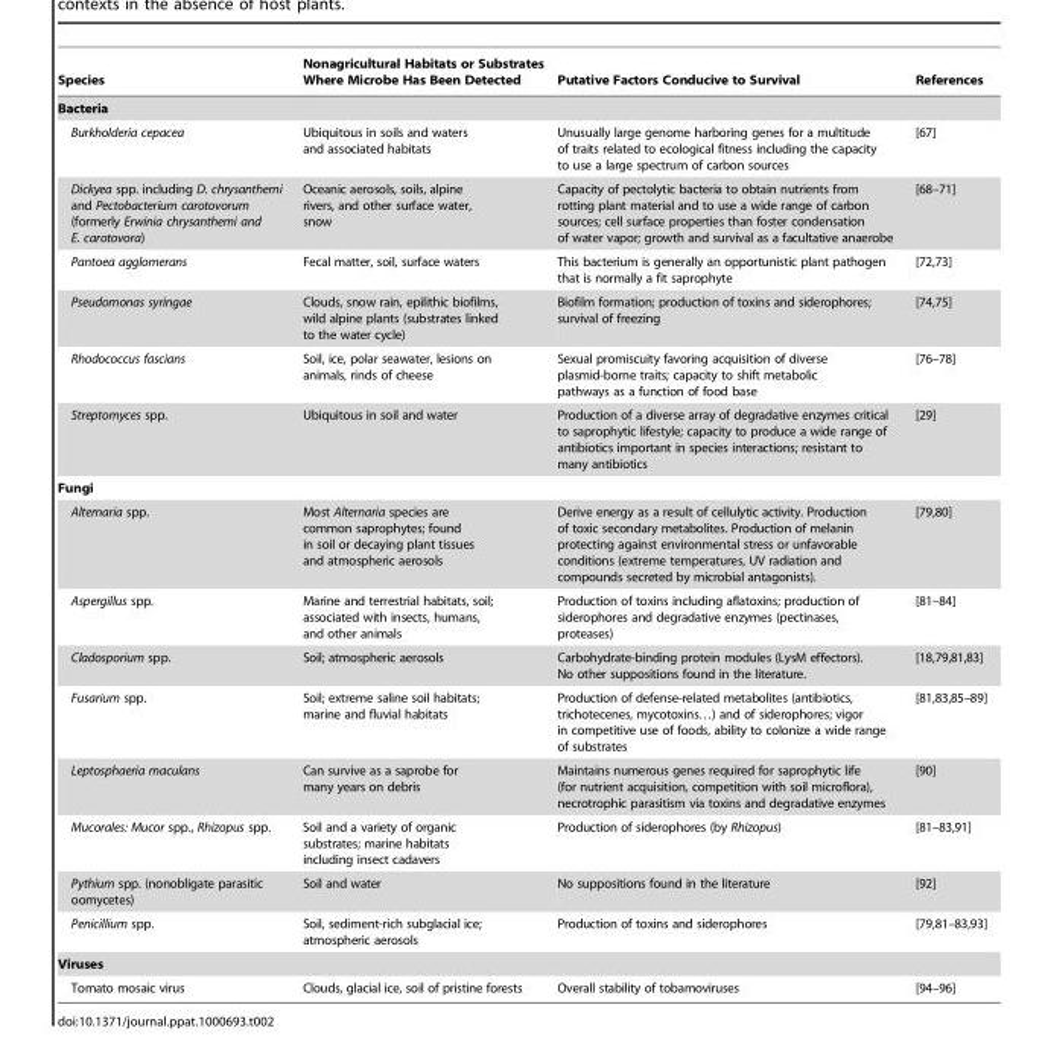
<table><thead><tr><td>Species</td><td>Nonagricultural Habitats or Substrates Where Microbe Has Been Detected</td><td>Putative Factors Conducive to Survival</td><td>References</td></tr></thead><tbody><tr><td colspan="4">Bacteria</td></tr><tr><td>Burkholderia cepacea</td><td>Ubiquitous in soils and waters and associated habitats</td><td>Unusually large genome harboring genes for a multitude of traits related to ecological fitness including the capacity to use a large spectrum of carbon sources</td><td>[67]</td></tr><tr><td>Dickyea spp. including D. chrysanthemi and Pectobacterium carotovorum (formerly Erwinia chrysanthemi and E. carotovora)</td><td>Oceanic aerosols, soils, alpine rivers, and other surface water, snow</td><td>Capacity of pectolytic bacteria to obtain nutrients from rotting plant material and to use a wide range of carbon sources; cell surface properties than foster condensation of water vapor; growth and survival as a facultative anaerobe</td><td>[68–71]</td></tr><tr><td>Pantoea agglomerans</td><td>Fecal matter, soil, surface waters</td><td>This bacterium is generally an opportunistic plant pathogen that is normally a fit saprophyte</td><td>[72,73]</td></tr><tr><td>Pseudomonas syringae</td><td>Clouds, snow rain, epilithic biofilms, wild alpine plants (substrates linked to the water cycle)</td><td>Biofilm formation; production of toxins and siderophores; survival of freezing</td><td>[74,75]</td></tr><tr><td>Rhodococcus fascians</td><td>Soil, ice, polar seawater, lesions on animals, rinds of cheese</td><td>Sexual promiscuity favoring acquisition of diverse plasmid-borne traits; capacity to shift metabolic pathways as a function of food base</td><td>[76–78]</td></tr><tr><td>Streptomyces spp.</td><td>Ubiquitous in soil and water</td><td>Production of a diverse array of degradative enzymes critical to saprophytic lifestyle; capacity to produce a wide range of antibiotics important in species interactions; resistant to many antibiotics</td><td>[29]</td></tr><tr><td colspan="4">Fungi</td></tr><tr><td>Alternaria spp.</td><td>Most Alternaria species are common saprophytes; found in soil or decaying plant tissues and atmospheric aerosols</td><td>Derive energy as a result of cellulytic activity. Production of toxic secondary metabolites. Production of melanin protecting against environmental stress or unfavorable conditions (extreme temperatures, UV radiation and compounds secreted by microbial antagonists).</td><td>[79,80]</td></tr><tr><td>Aspergillus spp.</td><td>Marine and terrestrial habitats, soil; associated with insects, humans, and other animals</td><td>Production of toxins including aflatoxins; production of siderophores and degradative enzymes (pectinases, proteases)</td><td>[81–84]</td></tr><tr><td>Cladosporium spp.</td><td>Soil; atmospheric aerosols</td><td>Carbohydrate-binding protein modules (LysM effectors). No other suppositions found in the literature.</td><td>[18,79,81,83]</td></tr><tr><td>Fusarium spp.</td><td>Soil; extreme saline soil habitats; marine and fluvial habitats</td><td>Production of defense-related metabolites (antibiotics, trichotecenes, mycotoxins…) and of siderophores; vigor in competitive use of foods, ability to colonize a wide range of substrates</td><td>[81,83,85–89]</td></tr><tr><td>Leptosphaeria maculans</td><td>Can survive as a saprobe for many years on debris</td><td>Maintains numerous genes required for saprophytic life (for nutrient acquisition, competition with soil microflora), necrotrophic parasitism via toxins and degradative enzymes</td><td>[90]</td></tr><tr><td>Mucorales: Mucor spp., Rhizopus spp.</td><td>Soil and a variety of organic substrates; marine habitats including insect cadavers</td><td>Production of siderophores (by Rhizopus)</td><td>[81–83,91]</td></tr><tr><td>Pythium spp. (nonobligate parasitic oomycetes)</td><td>Soil and water</td><td>No suppositions found in the literature</td><td>[92]</td></tr><tr><td>Penicillium spp.</td><td>Soil, sediment-rich subglacial ice; atmospheric aerosols</td><td>Production of toxins and siderophores</td><td>[79,81–83,93]</td></tr><tr><td colspan="4">Viruses</td></tr><tr><td>Tomato mosaic virus</td><td>Clouds, glacial ice, soil of pristine forests</td><td>Overall stability of tobamoviruses</td><td>[94–96]</td></tr></tbody></table>